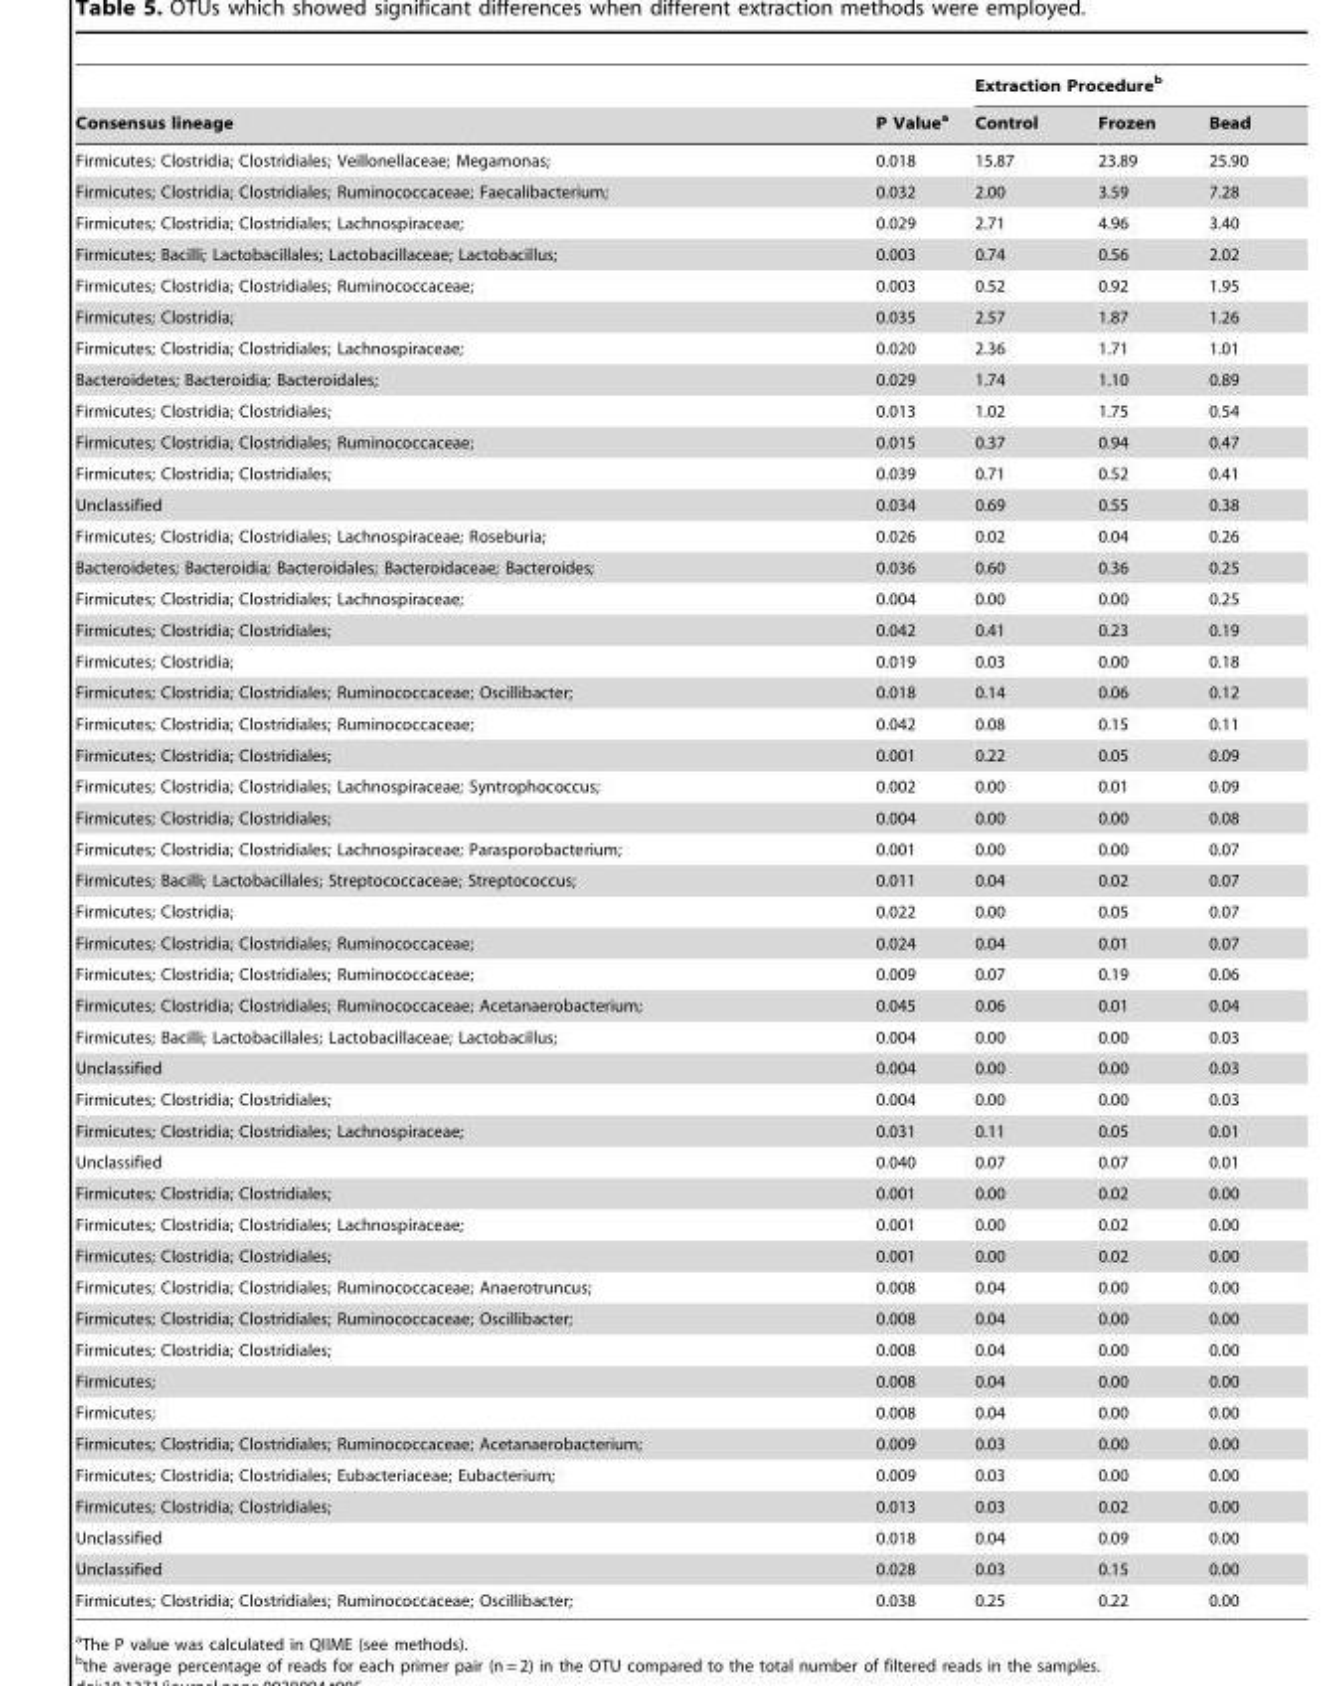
<table><thead><tr><td rowspan="2">Consensus lineage</td><td rowspan="2">P Value<sup>a</sup></td><td colspan="3">Extraction Procedure<sup>b</sup></td></tr><tr><td>Control</td><td>Frozen</td><td>Bead</td></tr></thead><tbody><tr><td>Firmicutes; Clostridia; Clostridiales; Veillonellaceae; Megamonas;</td><td>0.018</td><td>15.87</td><td>23.89</td><td>25.90</td></tr><tr><td>Firmicutes; Clostridia; Clostridiales; Ruminococcaceae; Faecalibacterium;</td><td>0.032</td><td>2.00</td><td>3.59</td><td>7.28</td></tr><tr><td>Firmicutes; Clostridia; Clostridiales; Lachnospiraceae;</td><td>0.029</td><td>2.71</td><td>4.96</td><td>3.40</td></tr><tr><td>Firmicutes; Bacilli; Lactobacillales; Lactobacillaceae; Lactobacillus;</td><td>0.003</td><td>0.74</td><td>0.56</td><td>2.02</td></tr><tr><td>Firmicutes; Clostridia; Clostridiales; Ruminococcaceae;</td><td>0.003</td><td>0.52</td><td>0.92</td><td>1.95</td></tr><tr><td>Firmicutes; Clostridia;</td><td>0.035</td><td>2.57</td><td>1.87</td><td>1.26</td></tr><tr><td>Firmicutes; Clostridia; Clostridiales; Lachnospiraceae;</td><td>0.020</td><td>2.36</td><td>1.71</td><td>1.01</td></tr><tr><td>Bacteroidetes; Bacteroidia; Bacteroidales;</td><td>0.029</td><td>1.74</td><td>1.10</td><td>0.89</td></tr><tr><td>Firmicutes; Clostridia; Clostridiales;</td><td>0.013</td><td>1.02</td><td>1.75</td><td>0.54</td></tr><tr><td>Firmicutes; Clostridia; Clostridiales; Ruminococcaceae;</td><td>0.015</td><td>0.37</td><td>0.94</td><td>0.47</td></tr><tr><td>Firmicutes; Clostridia; Clostridiales;</td><td>0.039</td><td>0.71</td><td>0.52</td><td>0.41</td></tr><tr><td>Unclassified</td><td>0.034</td><td>0.69</td><td>0.55</td><td>0.38</td></tr><tr><td>Firmicutes; Clostridia; Clostridiales; Lachnospiraceae; Roseburia;</td><td>0.026</td><td>0.02</td><td>0.04</td><td>0.26</td></tr><tr><td>Bacteroidetes; Bacteroidia; Bacteroidales; Bacteroidaceae; Bacteroides;</td><td>0.036</td><td>0.60</td><td>0.36</td><td>0.25</td></tr><tr><td>Firmicutes; Clostridia; Clostridiales; Lachnospiraceae;</td><td>0.004</td><td>0.00</td><td>0.00</td><td>0.25</td></tr><tr><td>Firmicutes; Clostridia; Clostridiales;</td><td>0.042</td><td>0.41</td><td>0.23</td><td>0.19</td></tr><tr><td>Firmicutes; Clostridia;</td><td>0.019</td><td>0.03</td><td>0.00</td><td>0.18</td></tr><tr><td>Firmicutes; Clostridia; Clostridiales; Ruminococcaceae; Oscillibacter;</td><td>0.018</td><td>0.14</td><td>0.06</td><td>0.12</td></tr><tr><td>Firmicutes; Clostridia; Clostridiales; Ruminococcaceae;</td><td>0.042</td><td>0.08</td><td>0.15</td><td>0.11</td></tr><tr><td>Firmicutes; Clostridia; Clostridiales;</td><td>0.001</td><td>0.22</td><td>0.05</td><td>0.09</td></tr><tr><td>Firmicutes; Clostridia; Clostridiales; Lachnospiraceae; Syntrophococcus;</td><td>0.002</td><td>0.00</td><td>0.01</td><td>0.09</td></tr><tr><td>Firmicutes; Clostridia; Clostridiales;</td><td>0.004</td><td>0.00</td><td>0.00</td><td>0.08</td></tr><tr><td>Firmicutes; Clostridia; Clostridiales; Lachnospiraceae; Parasporobacterium;</td><td>0.001</td><td>0.00</td><td>0.00</td><td>0.07</td></tr><tr><td>Firmicutes; Bacilli; Lactobacillales; Streptococcaceae; Streptococcus;</td><td>0.011</td><td>0.04</td><td>0.02</td><td>0.07</td></tr><tr><td>Firmicutes; Clostridia;</td><td>0.022</td><td>0.00</td><td>0.05</td><td>0.07</td></tr><tr><td>Firmicutes; Clostridia; Clostridiales; Ruminococcaceae;</td><td>0.024</td><td>0.04</td><td>0.01</td><td>0.07</td></tr><tr><td>Firmicutes; Clostridia; Clostridiales; Ruminococcaceae;</td><td>0.009</td><td>0.07</td><td>0.19</td><td>0.06</td></tr><tr><td>Firmicutes; Clostridia; Clostridiales; Ruminococcaceae; Acetanaerobacterium;</td><td>0.045</td><td>0.06</td><td>0.01</td><td>0.04</td></tr><tr><td>Firmicutes; Bacilli; Lactobacillales; Lactobacillaceae; Lactobacillus;</td><td>0.004</td><td>0.00</td><td>0.00</td><td>0.03</td></tr><tr><td>Unclassified</td><td>0.004</td><td>0.00</td><td>0.00</td><td>0.03</td></tr><tr><td>Firmicutes; Clostridia; Clostridiales;</td><td>0.004</td><td>0.00</td><td>0.00</td><td>0.03</td></tr><tr><td>Firmicutes; Clostridia; Clostridiales; Lachnospiraceae;</td><td>0.031</td><td>0.11</td><td>0.05</td><td>0.01</td></tr><tr><td>Unclassified</td><td>0.040</td><td>0.07</td><td>0.07</td><td>0.01</td></tr><tr><td>Firmicutes; Clostridia; Clostridiales;</td><td>0.001</td><td>0.00</td><td>0.02</td><td>0.00</td></tr><tr><td>Firmicutes; Clostridia; Clostridiales; Lachnospiraceae;</td><td>0.001</td><td>0.00</td><td>0.02</td><td>0.00</td></tr><tr><td>Firmicutes; Clostridia; Clostridiales;</td><td>0.001</td><td>0.00</td><td>0.02</td><td>0.00</td></tr><tr><td>Firmicutes; Clostridia; Clostridiales; Ruminococcaceae; Anaerotruncus;</td><td>0.008</td><td>0.04</td><td>0.00</td><td>0.00</td></tr><tr><td>Firmicutes; Clostridia; Clostridiales; Ruminococcaceae; Oscillibacter;</td><td>0.008</td><td>0.04</td><td>0.00</td><td>0.00</td></tr><tr><td>Firmicutes; Clostridia; Clostridiales;</td><td>0.008</td><td>0.04</td><td>0.00</td><td>0.00</td></tr><tr><td>Firmicutes;</td><td>0.008</td><td>0.04</td><td>0.00</td><td>0.00</td></tr><tr><td>Firmicutes;</td><td>0.008</td><td>0.04</td><td>0.00</td><td>0.00</td></tr><tr><td>Firmicutes; Clostridia; Clostridiales; Ruminococcaceae; Acetanaerobacterium;</td><td>0.009</td><td>0.03</td><td>0.00</td><td>0.00</td></tr><tr><td>Firmicutes; Clostridia; Clostridiales; Eubacteriaceae; Eubacterium;</td><td>0.009</td><td>0.03</td><td>0.00</td><td>0.00</td></tr><tr><td>Firmicutes; Clostridia; Clostridiales;</td><td>0.013</td><td>0.03</td><td>0.02</td><td>0.00</td></tr><tr><td>Unclassified</td><td>0.018</td><td>0.04</td><td>0.09</td><td>0.00</td></tr><tr><td>Unclassified</td><td>0.028</td><td>0.03</td><td>0.15</td><td>0.00</td></tr><tr><td>Firmicutes; Clostridia; Clostridiales; Ruminococcaceae; Oscillibacter;</td><td>0.038</td><td>0.25</td><td>0.22</td><td>0.00</td></tr></tbody></table>